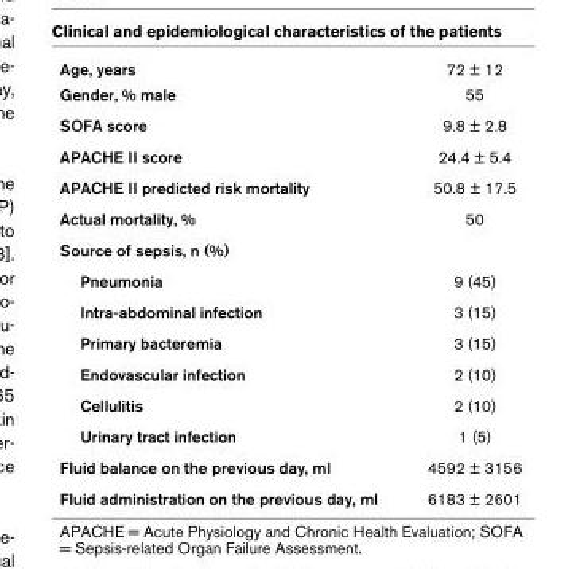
<table><tbody><tr><td>Age, years</td><td>72 ± 12</td></tr><tr><td>Gender, % male</td><td>55</td></tr><tr><td>SOFA score</td><td>9.8 ± 2.8</td></tr><tr><td>APACHE II score</td><td>24.4 ± 5.4</td></tr><tr><td>APACHE II predicted risk mortality</td><td>50.8 ± 17.5</td></tr><tr><td>Actual mortality, %</td><td>50</td></tr><tr><td colspan="2">Source of sepsis, n (%)</td></tr><tr><td>Pneumonia</td><td>9 (45)</td></tr><tr><td>Intra-abdominal infection</td><td>3 (15)</td></tr><tr><td>Primary bacteremia</td><td>3 (15)</td></tr><tr><td>Endovascular infection</td><td>2 (10)</td></tr><tr><td>Cellulitis</td><td>2 (10)</td></tr><tr><td>Urinary tract infection</td><td>1 (5)</td></tr><tr><td>Fluid balance on the previous day, ml</td><td>4592 ± 3156</td></tr><tr><td>Fluid administration on the previous day, ml</td><td>6183 ± 2601</td></tr></tbody></table>